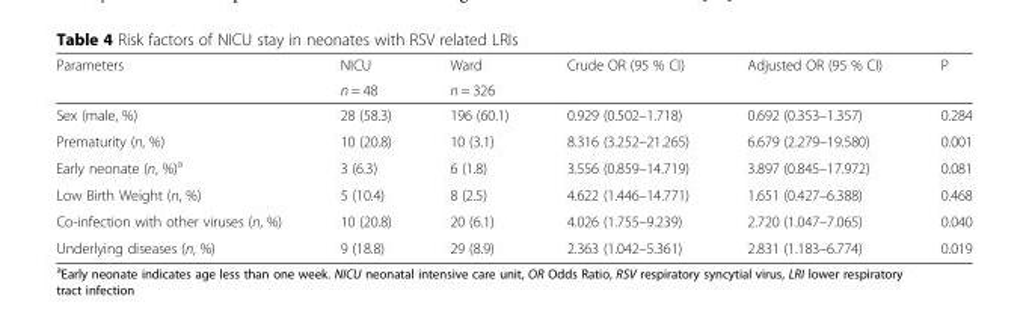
<table><thead><tr><td rowspan="2">Parameters</td><td rowspan="2">NICU n = 48</td><td rowspan="2">Ward n = 326</td><td rowspan="2">Crude OR (95 % CI)</td><td rowspan="2">Adjusted OR (95 % CI)</td><td rowspan="2">P</td></tr><tr></tr></thead><tbody><tr><td>Sex (male, %)</td><td>28 (58.3)</td><td>196 (60.1)</td><td>0.929 (0.502–1.718)</td><td>0.692 (0.353–1.357)</td><td>0.284</td></tr><tr><td>Prematurity (n, %)</td><td>10 (20.8)</td><td>10 (3.1)</td><td>8.316 (3.252–21.265)</td><td>6.679 (2.279–19.580)</td><td>0.001</td></tr><tr><td>Early neonate (n, %)<sup>a</sup></td><td>3 (6.3)</td><td>6 (1.8)</td><td>3.556 (0.859–14.719)</td><td>3.897 (0.845–17.972)</td><td>0.081</td></tr><tr><td>Low Birth Weight (n, %)</td><td>5 (10.4)</td><td>8 (2.5)</td><td>4.622 (1.446–14.771)</td><td>1.651 (0.427–6.388)</td><td>0.468</td></tr><tr><td>Co-infection with other viruses (n, %)</td><td>10 (20.8)</td><td>20 (6.1)</td><td>4.026 (1.755–9.239)</td><td>2.720 (1.047–7.065)</td><td>0.040</td></tr><tr><td>Underlying diseases (n, %)</td><td>9 (18.8)</td><td>29 (8.9)</td><td>2.363 (1.042–5.361)</td><td>2.831 (1.183–6.774)</td><td>0.019</td></tr></tbody></table>